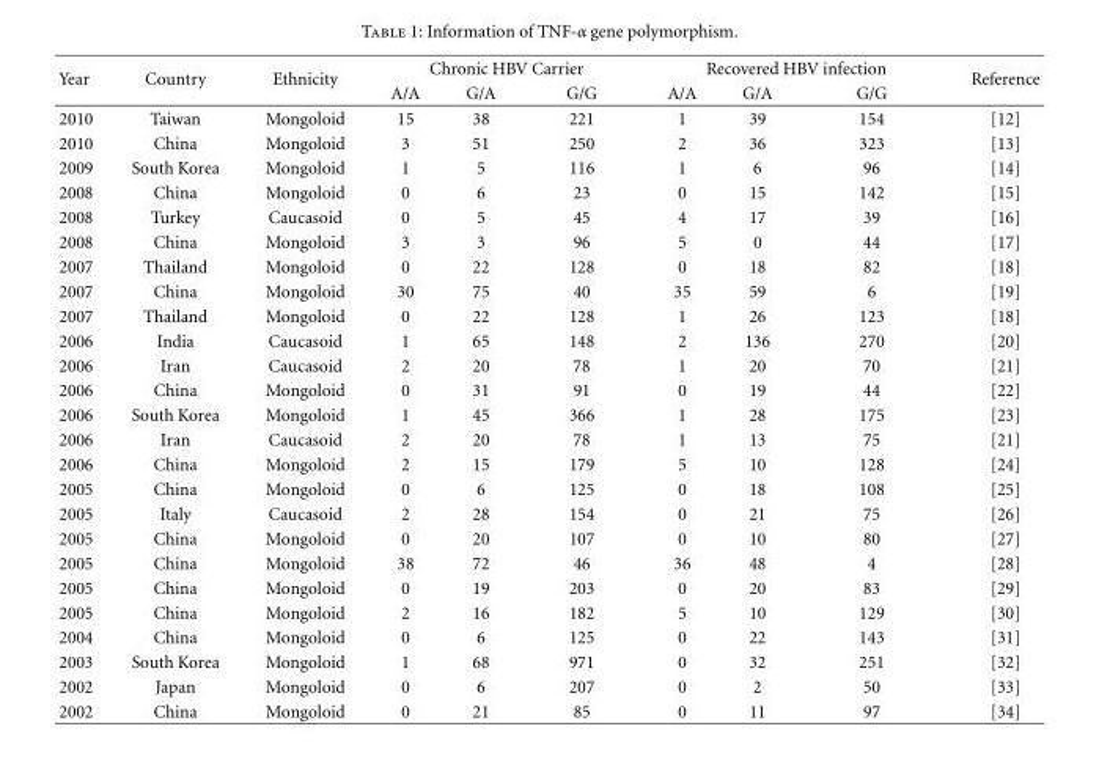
<table><thead><tr><td rowspan="2">Year</td><td rowspan="2">Country</td><td rowspan="2">Ethnicity</td><td colspan="3">Chronic HBV Carrier</td><td colspan="3">Recovered HBV infection</td><td rowspan="2">Reference</td></tr><tr><td>A/A</td><td>G/A</td><td>G/G</td><td>A/A</td><td>G/A</td><td>G/G</td></tr></thead><tbody><tr><td>2010</td><td>Taiwan</td><td>Mongoloid</td><td>15</td><td>38</td><td>221</td><td>1</td><td>39</td><td>154</td><td>[12]</td></tr><tr><td>2010</td><td>China</td><td>Mongoloid</td><td>3</td><td>51</td><td>250</td><td>2</td><td>36</td><td>323</td><td>[13]</td></tr><tr><td>2009</td><td>South Korea</td><td>Mongoloid</td><td>1</td><td>5</td><td>116</td><td>1</td><td>6</td><td>96</td><td>[14]</td></tr><tr><td>2008</td><td>China</td><td>Mongoloid</td><td>0</td><td>6</td><td>23</td><td>0</td><td>15</td><td>142</td><td>[15]</td></tr><tr><td>2008</td><td>Turkey</td><td>Caucasoid</td><td>0</td><td>5</td><td>45</td><td>4</td><td>17</td><td>39</td><td>[16]</td></tr><tr><td>2008</td><td>China</td><td>Mongoloid</td><td>3</td><td>3</td><td>96</td><td>5</td><td>0</td><td>44</td><td>[17]</td></tr><tr><td>2007</td><td>Thailand</td><td>Mongoloid</td><td>0</td><td>22</td><td>128</td><td>0</td><td>18</td><td>82</td><td>[18]</td></tr><tr><td>2007</td><td>China</td><td>Mongoloid</td><td>30</td><td>75</td><td>40</td><td>35</td><td>59</td><td>6</td><td>[19]</td></tr><tr><td>2007</td><td>Thailand</td><td>Mongoloid</td><td>0</td><td>22</td><td>128</td><td>1</td><td>26</td><td>123</td><td>[18]</td></tr><tr><td>2006</td><td>India</td><td>Caucasoid</td><td>1</td><td>65</td><td>148</td><td>2</td><td>136</td><td>270</td><td>[20]</td></tr><tr><td>2006</td><td>Iran</td><td>Caucasoid</td><td>2</td><td>20</td><td>78</td><td>1</td><td>20</td><td>70</td><td>[21]</td></tr><tr><td>2006</td><td>China</td><td>Mongoloid</td><td>0</td><td>31</td><td>91</td><td>0</td><td>19</td><td>44</td><td>[22]</td></tr><tr><td>2006</td><td>South Korea</td><td>Mongoloid</td><td>1</td><td>45</td><td>366</td><td>1</td><td>28</td><td>175</td><td>[23]</td></tr><tr><td>2006</td><td>Iran</td><td>Caucasoid</td><td>2</td><td>20</td><td>78</td><td>1</td><td>13</td><td>75</td><td>[21]</td></tr><tr><td>2006</td><td>China</td><td>Mongoloid</td><td>2</td><td>15</td><td>179</td><td>5</td><td>10</td><td>128</td><td>[24]</td></tr><tr><td>2005</td><td>China</td><td>Mongoloid</td><td>0</td><td>6</td><td>125</td><td>0</td><td>18</td><td>108</td><td>[25]</td></tr><tr><td>2005</td><td>Italy</td><td>Caucasoid</td><td>2</td><td>28</td><td>154</td><td>0</td><td>21</td><td>75</td><td>[26]</td></tr><tr><td>2005</td><td>China</td><td>Mongoloid</td><td>0</td><td>20</td><td>107</td><td>0</td><td>10</td><td>80</td><td>[27]</td></tr><tr><td>2005</td><td>China</td><td>Mongoloid</td><td>38</td><td>72</td><td>46</td><td>36</td><td>48</td><td>4</td><td>[28]</td></tr><tr><td>2005</td><td>China</td><td>Mongoloid</td><td>0</td><td>19</td><td>203</td><td>0</td><td>20</td><td>83</td><td>[29]</td></tr><tr><td>2005</td><td>China</td><td>Mongoloid</td><td>2</td><td>16</td><td>182</td><td>5</td><td>10</td><td>129</td><td>[30]</td></tr><tr><td>2004</td><td>China</td><td>Mongoloid</td><td>0</td><td>6</td><td>125</td><td>0</td><td>22</td><td>143</td><td>[31]</td></tr><tr><td>2003</td><td>South Korea</td><td>Mongoloid</td><td>1</td><td>68</td><td>971</td><td>0</td><td>32</td><td>251</td><td>[32]</td></tr><tr><td>2002</td><td>Japan</td><td>Mongoloid</td><td>0</td><td>6</td><td>207</td><td>0</td><td>2</td><td>50</td><td>[33]</td></tr><tr><td>2002</td><td>China</td><td>Mongoloid</td><td>0</td><td>21</td><td>85</td><td>0</td><td>11</td><td>97</td><td>[34]</td></tr></tbody></table>